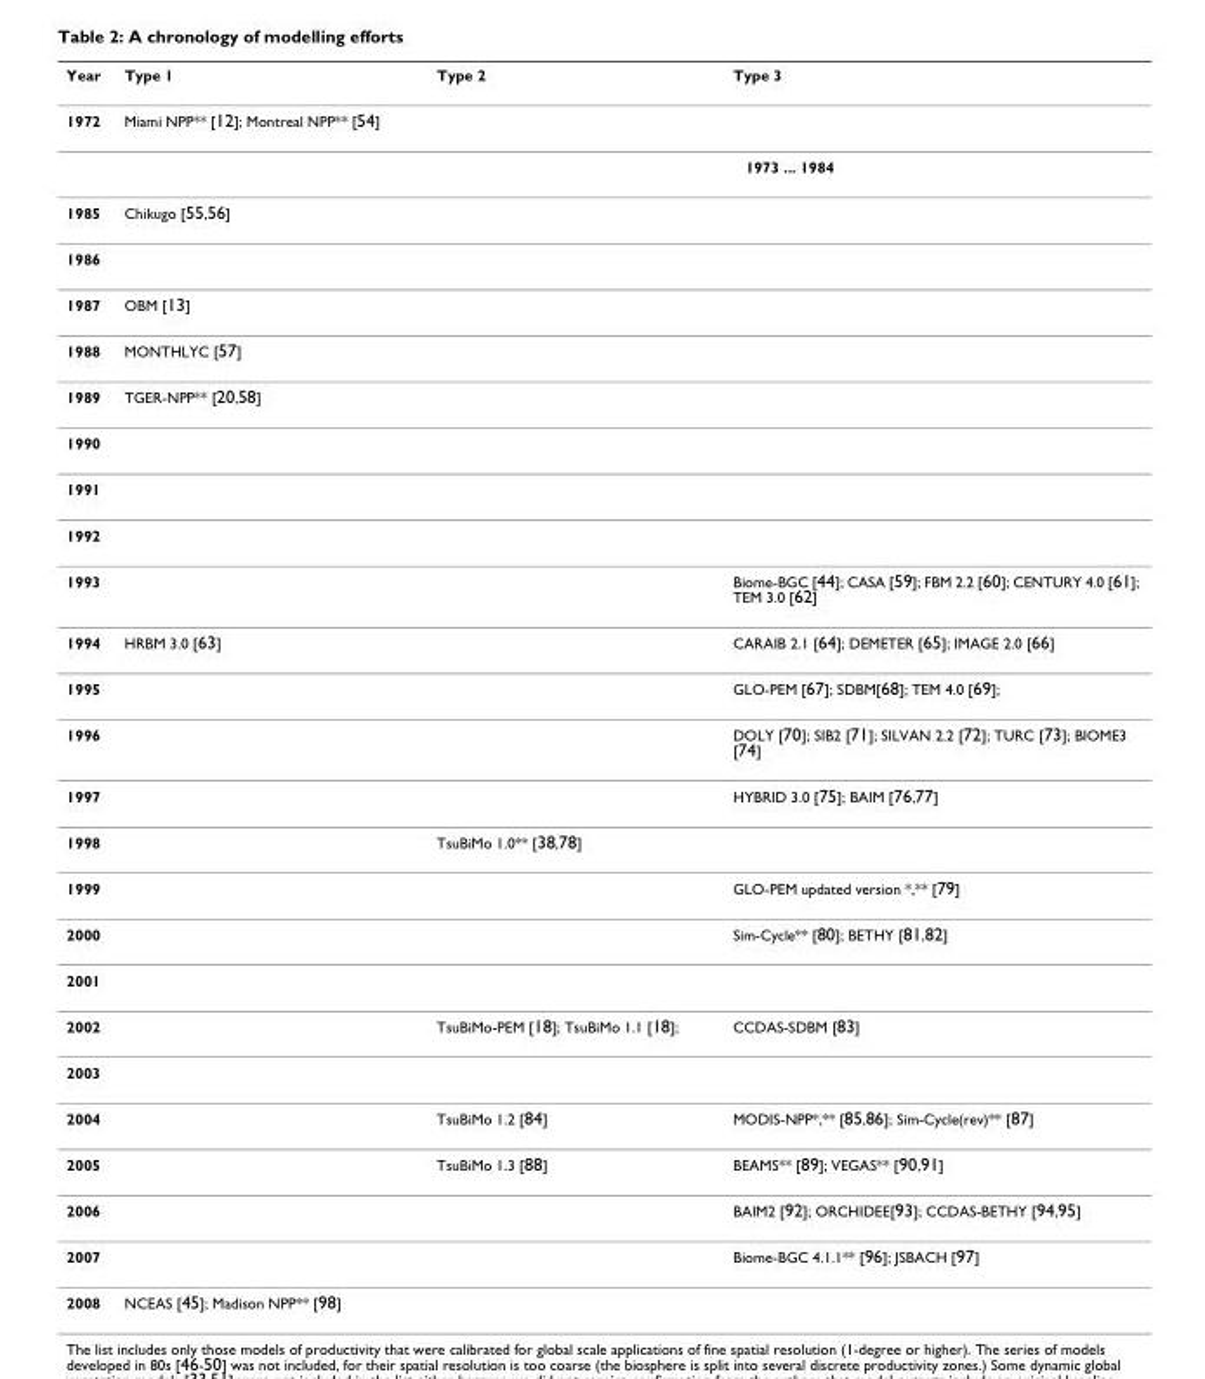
<table><thead><tr><td>Year</td><td>Type 1</td><td>Type 2</td><td>Type 3</td></tr></thead><tbody><tr><td rowspan="2">1972</td><td>Miami NPP** [12]; Montreal NPP** [54]</td><td></td><td></td></tr><tr><td></td><td colspan="2">1973 ... 1984</td></tr><tr><td>1985</td><td>Chikugo [55,56]</td><td></td><td></td></tr><tr><td colspan="4">1986</td></tr><tr><td>1987</td><td>OBM [13]</td><td></td><td></td></tr><tr><td>1988</td><td>MONTHLYC [57]</td><td></td><td></td></tr><tr><td>1989</td><td>TGER-NPP** [20,58]</td><td></td><td></td></tr><tr><td colspan="4">1990</td></tr><tr><td colspan="4">1991</td></tr><tr><td colspan="4">1992</td></tr><tr><td>1993</td><td></td><td></td><td>Biome-BGC [44]; CASA [59]; FBM 2.2 [60]; CENTURY 4.0 [61]; TEM 3.0 [62]</td></tr><tr><td>1994</td><td>HRBM 3.0 [63]</td><td></td><td>CARAIB 2.1 [64]; DEMETER [65]; IMAGE 2.0 [66]</td></tr><tr><td>1995</td><td></td><td></td><td>GLO-PEM [67]; SDBM[68]; TEM 4.0 [69];</td></tr><tr><td>1996</td><td></td><td></td><td>DOLY [70]; SIB2 [71]; SILVAN 2.2 [72]; TURC [73]; BIOME3 [74]</td></tr><tr><td>1997</td><td></td><td></td><td>HYBRID 3.0 [75]; BAIM [76,77]</td></tr><tr><td>1998</td><td></td><td>TsuBiMo 1.0** [38,78]</td><td></td></tr><tr><td>1999</td><td></td><td></td><td>GLO-PEM updated version *,** [79]</td></tr><tr><td>2000</td><td></td><td></td><td>Sim-Cycle** [80]; BETHY [81,82]</td></tr><tr><td colspan="4">2001</td></tr><tr><td>2002</td><td></td><td>TsuBiMo-PEM [18]; TsuBiMo 1.1 [18];</td><td>CCDAS-SDBM [83]</td></tr><tr><td colspan="4">2003</td></tr><tr><td>2004</td><td></td><td>TsuBiMo 1.2 [84]</td><td>MODIS-NPP*,** [85,86]; Sim-Cycle(rev)** [87]</td></tr><tr><td>2005</td><td></td><td>TsuBiMo 1.3 [88]</td><td>BEAMS** [89]; VEGAS** [90,91]</td></tr><tr><td>2006</td><td></td><td></td><td>BAIM2 [92]; ORCHIDEE[93]; CCDAS-BETHY [94,95]</td></tr><tr><td>2007</td><td></td><td></td><td>Biome-BGC 4.1.1** [96]; JSBACH [97]</td></tr><tr><td>2008</td><td>NCEAS [45]; Madison NPP** [98]</td><td></td><td></td></tr></tbody></table>